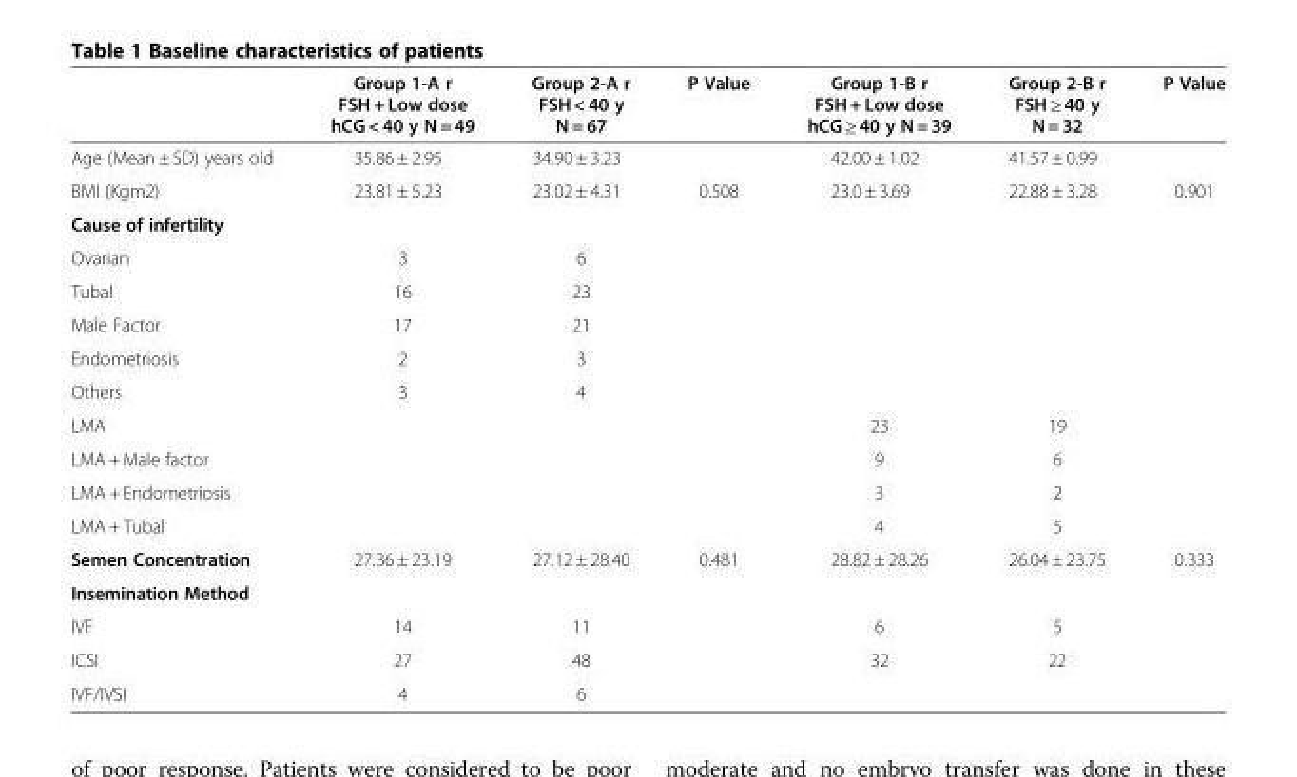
<table><thead><tr><td></td><td>Group 1-A r FSH + Low dose hCG &lt; 40 y N = 49</td><td>Group 2-A r FSH &lt; 40 y N = 67</td><td>P Value</td><td>Group 1-B r FSH + Low dose hCG ≥ 40 y N = 39</td><td>Group 2-B r FSH ≥ 40 y N = 32</td><td>P Value</td></tr></thead><tbody><tr><td>Age (Mean ± SD) years old</td><td>35.86 ± 2.95</td><td>34.90 ± 3.23</td><td></td><td>42.00 ± 1.02</td><td>41.57 ± 0.99</td><td></td></tr><tr><td>BMI (Kgm2)</td><td>23.81 ± 5.23</td><td>23.02 ± 4.31</td><td>0.508</td><td>23.0 ± 3.69</td><td>22.88 ± 3.28</td><td>0.901</td></tr><tr><td colspan="7">Cause of infertility</td></tr><tr><td>Ovarian</td><td>3</td><td>6</td><td></td><td></td><td></td><td></td></tr><tr><td>Tubal</td><td>16</td><td>23</td><td></td><td></td><td></td><td></td></tr><tr><td>Male Factor</td><td>17</td><td>21</td><td></td><td></td><td></td><td></td></tr><tr><td>Endometriosis</td><td>2</td><td>3</td><td></td><td></td><td></td><td></td></tr><tr><td>Others</td><td>3</td><td>4</td><td></td><td></td><td></td><td></td></tr><tr><td>LMA</td><td></td><td></td><td></td><td>23</td><td>19</td><td></td></tr><tr><td>LMA + Male factor</td><td></td><td></td><td></td><td>9</td><td>6</td><td></td></tr><tr><td>LMA + Endometriosis</td><td></td><td></td><td></td><td>3</td><td>2</td><td></td></tr><tr><td>LMA + Tubal</td><td></td><td></td><td></td><td>4</td><td>5</td><td></td></tr><tr><td>Semen Concentration</td><td>27.36 ± 23.19</td><td>27.12 ± 28.40</td><td>0.481</td><td>28.82 ± 28.26</td><td>26.04 ± 23.75</td><td>0.333</td></tr><tr><td colspan="7">Insemination Method</td></tr><tr><td>IVF</td><td>14</td><td>11</td><td></td><td>6</td><td>5</td><td></td></tr><tr><td>ICSI</td><td>27</td><td>48</td><td></td><td>32</td><td>22</td><td></td></tr><tr><td>IVF/IVSI</td><td>4</td><td>6</td><td></td><td></td><td></td><td></td></tr></tbody></table>